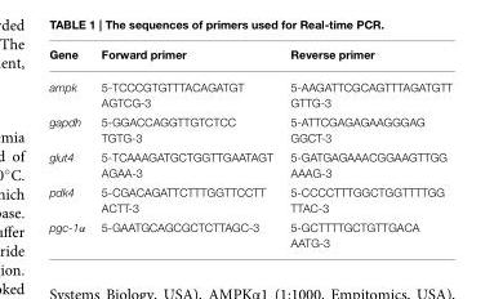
<table><thead><tr><td>Gene</td><td>Forward primer</td><td>Reverse primer</td></tr></thead><tbody><tr><td>ampk</td><td>5-TCCCGTGTTTACAGATGT AGTCG-3</td><td>5-AAGATTCGCAGTTTAGATGTT GTTG-3</td></tr><tr><td>gapdh</td><td>5-GGACCAGGTTGTCTCC TGTG-3</td><td>5-ATTCGAGAGAAGGGAG GGCT-3</td></tr><tr><td>glut4</td><td>5-TCAAAGATGCTGGTTGAATAGT AGAA-3</td><td>5-GATGAGAAACGGAAGTTGG AAAG-3</td></tr><tr><td>pdk4</td><td>5-CGACAGATTCTTTGGTTCCTT ACTT-3</td><td>5-CCCCTTTGGCTGGTTTTGG TTAC-3</td></tr><tr><td>pgc-1α</td><td>5-GAATGCAGCGCTCTTAGC-3</td><td>5-GCTTTTGCTGTTGACA AATG-3</td></tr></tbody></table>